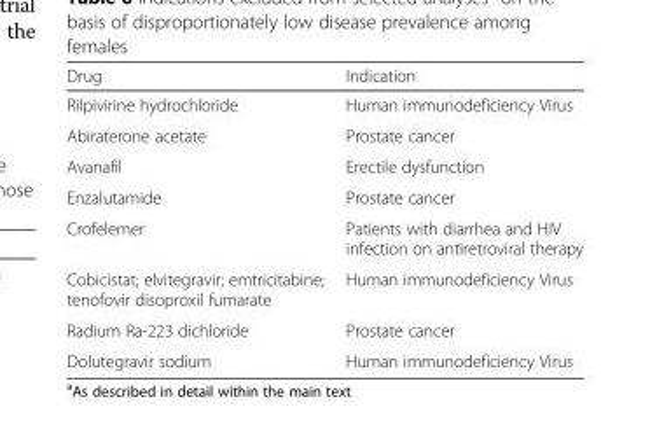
<table><thead><tr><td>Drug</td><td>Indication</td></tr></thead><tbody><tr><td>Rilpivirine hydrochloride</td><td>Human immunodeficiency Virus</td></tr><tr><td>Abiraterone acetate</td><td>Prostate cancer</td></tr><tr><td>Avanafil</td><td>Erectile dysfunction</td></tr><tr><td>Enzalutamide</td><td>Prostate cancer</td></tr><tr><td>Crofelemer</td><td>Patients with diarrhea and HIV infection on antiretroviral therapy</td></tr><tr><td>Cobicistat; elvitegravir; emtricitabine; tenofovir disoproxil fumarate</td><td>Human immunodeficiency Virus</td></tr><tr><td>Radium Ra-223 dichloride</td><td>Prostate cancer</td></tr><tr><td>Dolutegravir sodium</td><td>Human immunodeficiency Virus</td></tr></tbody></table>